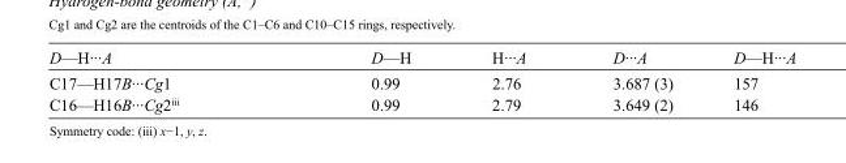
<table><tbody><tr><td>D—H···A</td><td>D—H</td><td>H···A</td><td>D···A</td><td>D—H···A</td></tr><tr><td>C17—H17B···Cg1</td><td>0.99</td><td>2.76</td><td>3.687 (3)</td><td>157</td></tr><tr><td>C16—H16B···Cg2<sup>iii</sup></td><td>0.99</td><td>2.79</td><td>3.649 (2)</td><td>146</td></tr></tbody></table>